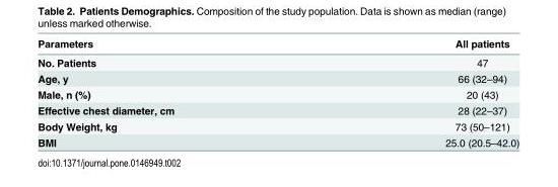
<table><thead><tr><td>Parameters</td><td>All patients</td></tr></thead><tbody><tr><td>No. Patients</td><td>47</td></tr><tr><td>Age, y</td><td>66 (32–94)</td></tr><tr><td>Male, n (%)</td><td>20 (43)</td></tr><tr><td>Effective chest diameter, cm</td><td>28 (22–37)</td></tr><tr><td>Body Weight, kg</td><td>73 (50–121)</td></tr><tr><td>BMI</td><td>25.0 (20.5–42.0)</td></tr></tbody></table>